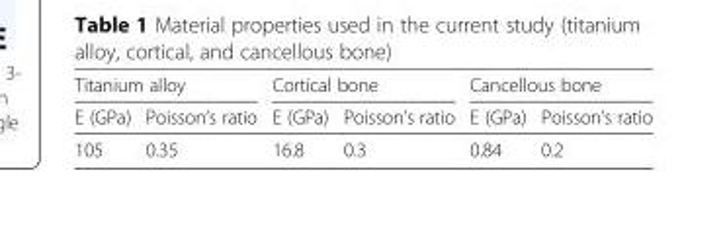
<table><thead><tr><td colspan="2">Titanium alloy</td><td colspan="2">Cortical bone</td><td colspan="2">Cancellous bone</td></tr><tr><td>E (GPa)</td><td>Poisson’s ratio</td><td>E (GPa)</td><td>Poisson’s ratio</td><td>E (GPa)</td><td>Poisson’s ratio</td></tr></thead><tbody><tr><td>105</td><td>0.35</td><td>16.8</td><td>0.3</td><td>0.84</td><td>0.2</td></tr></tbody></table>